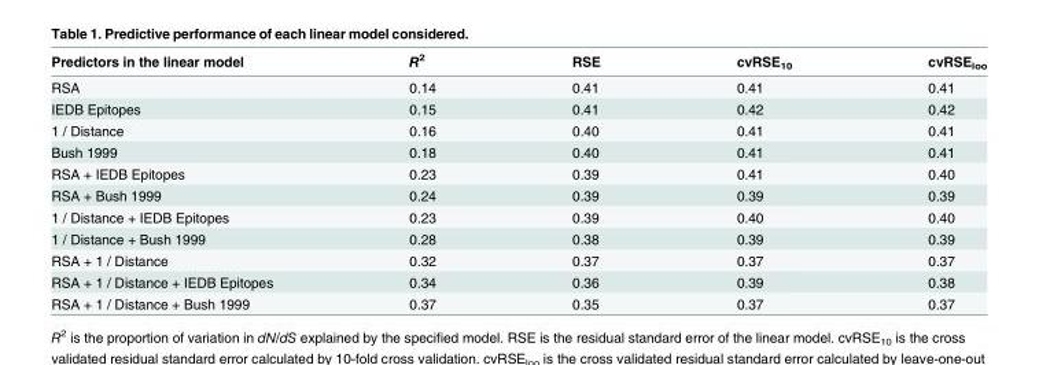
<table><thead><tr><td>Predictors in the linear model</td><td>R<sup>2</sup></td><td>RSE</td><td>cvRSE<sub>10</sub></td><td>cvRSE<sub>loo</sub></td></tr></thead><tbody><tr><td>RSA</td><td>0.14</td><td>0.41</td><td>0.41</td><td>0.41</td></tr><tr><td>IEDB Epitopes</td><td>0.15</td><td>0.41</td><td>0.42</td><td>0.42</td></tr><tr><td>1 / Distance</td><td>0.16</td><td>0.40</td><td>0.41</td><td>0.41</td></tr><tr><td>Bush 1999</td><td>0.18</td><td>0.40</td><td>0.41</td><td>0.41</td></tr><tr><td>RSA + IEDB Epitopes</td><td>0.23</td><td>0.39</td><td>0.41</td><td>0.40</td></tr><tr><td>RSA + Bush 1999</td><td>0.24</td><td>0.39</td><td>0.39</td><td>0.39</td></tr><tr><td>1 / Distance + IEDB Epitopes</td><td>0.23</td><td>0.39</td><td>0.40</td><td>0.40</td></tr><tr><td>1 / Distance + Bush 1999</td><td>0.28</td><td>0.38</td><td>0.39</td><td>0.39</td></tr><tr><td>RSA + 1 / Distance</td><td>0.32</td><td>0.37</td><td>0.37</td><td>0.37</td></tr><tr><td>RSA + 1 / Distance + IEDB Epitopes</td><td>0.34</td><td>0.36</td><td>0.39</td><td>0.38</td></tr><tr><td>RSA + 1 / Distance + Bush 1999</td><td>0.37</td><td>0.35</td><td>0.37</td><td>0.37</td></tr></tbody></table>